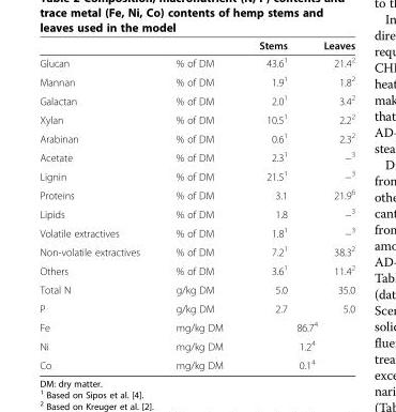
<table><thead><tr><td></td><td></td><td>Stems</td><td>Leaves</td></tr></thead><tbody><tr><td>Glucan</td><td>% of DM</td><td>43.6<sup>1</sup></td><td>21.4<sup>2</sup></td></tr><tr><td>Mannan</td><td>% of DM</td><td>1.9<sup>1</sup></td><td>1.8<sup>2</sup></td></tr><tr><td>Galactan</td><td>% of DM</td><td>2.0<sup>1</sup></td><td>3.4<sup>2</sup></td></tr><tr><td>Xylan</td><td>% of DM</td><td>10.5<sup>1</sup></td><td>2.2<sup>2</sup></td></tr><tr><td>Arabinan</td><td>% of DM</td><td>0.6<sup>1</sup></td><td>2.3<sup>2</sup></td></tr><tr><td>Acetate</td><td>% of DM</td><td>2.3<sup>1</sup></td><td>−<sup>3</sup></td></tr><tr><td>Lignin</td><td>% of DM</td><td>21.5<sup>1</sup></td><td>−<sup>3</sup></td></tr><tr><td>Proteins</td><td>% of DM</td><td>3.1</td><td>21.9<sup>6</sup></td></tr><tr><td>Lipids</td><td>% of DM</td><td>1.8</td><td>−<sup>3</sup></td></tr><tr><td>Volatile extractives</td><td>% of DM</td><td>1.8<sup>1</sup></td><td>−<sup>3</sup></td></tr><tr><td>Non-volatile extractives</td><td>% of DM</td><td>7.2<sup>1</sup></td><td>38.3<sup>2</sup></td></tr><tr><td>Others</td><td>% of DM</td><td>3.6<sup>1</sup></td><td>11.4<sup>2</sup></td></tr><tr><td>Total N</td><td>g/kg DM</td><td>5.0</td><td>35.0</td></tr><tr><td>P</td><td>g/kg DM</td><td>2.7</td><td>5.0</td></tr><tr><td>Fe</td><td>mg/kg DM</td><td colspan="2">86.7<sup>4</sup></td></tr><tr><td>Ni</td><td>mg/kg DM</td><td colspan="2">1.2<sup>4</sup></td></tr><tr><td>Co</td><td>mg/kg DM</td><td colspan="2">0.1<sup>4</sup></td></tr></tbody></table>